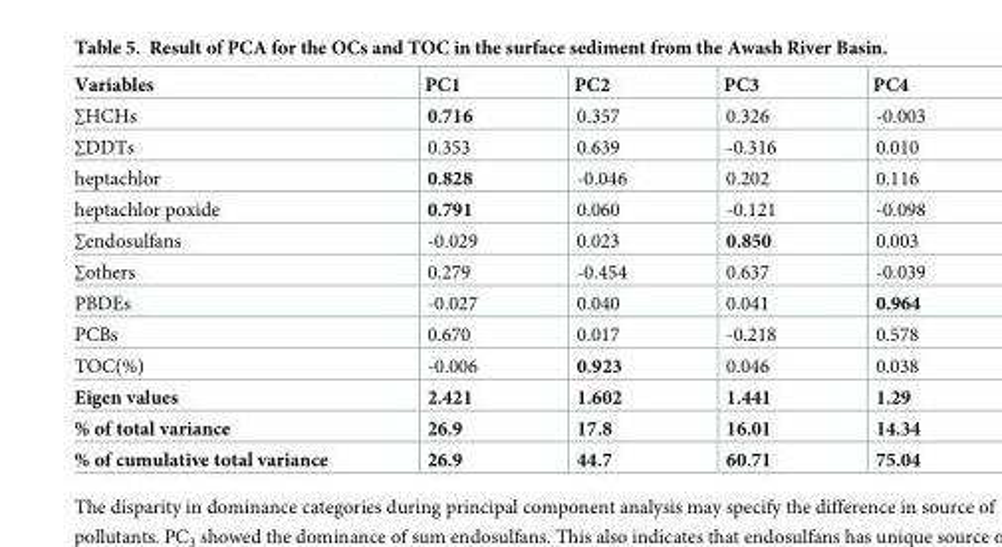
<table><thead><tr><td>Variables</td><td>PC1</td><td>PC2</td><td>PC3</td><td>PC4</td></tr></thead><tbody><tr><td>∑HCHs</td><td>0.716</td><td>0.357</td><td>0.326</td><td>-0.003</td></tr><tr><td>∑DDTs</td><td>0.353</td><td>0.639</td><td>-0.316</td><td>0.010</td></tr><tr><td>heptachlor</td><td>0.828</td><td>-0.046</td><td>0.202</td><td>0.116</td></tr><tr><td>heptachlor poxide</td><td>0.791</td><td>0.060</td><td>-0.121</td><td>-0.098</td></tr><tr><td>∑endosulfans</td><td>-0.029</td><td>0.023</td><td>0.850</td><td>0.003</td></tr><tr><td>∑others</td><td>0.279</td><td>-0.454</td><td>0.637</td><td>-0.039</td></tr><tr><td>PBDEs</td><td>-0.027</td><td>0.040</td><td>0.041</td><td>0.964</td></tr><tr><td>PCBs</td><td>0.670</td><td>0.017</td><td>-0.218</td><td>0.578</td></tr><tr><td>TOC(%)</td><td>-0.006</td><td>0.923</td><td>0.046</td><td>0.038</td></tr><tr><td>Eigen values</td><td>2.421</td><td>1.602</td><td>1.441</td><td>1.29</td></tr><tr><td>% of total variance</td><td>26.9</td><td>17.8</td><td>16.01</td><td>14.34</td></tr><tr><td>% of cumulative total variance</td><td>26.9</td><td>44.7</td><td>60.71</td><td>75.04</td></tr></tbody></table>